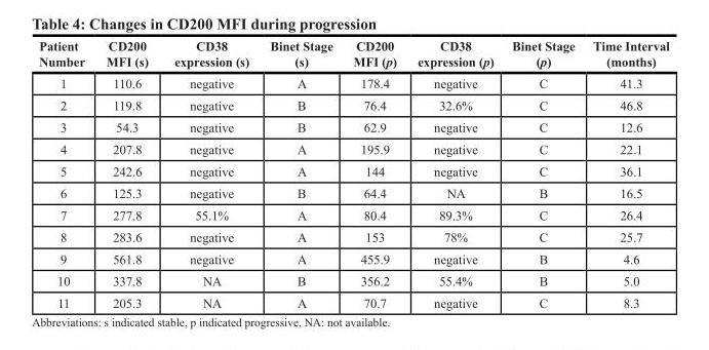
<table><thead><tr><td>Patient Number</td><td>CD200 MFI (s)</td><td>CD38 expression (s)</td><td>Binet Stage (s)</td><td>CD200 MFI (p)</td><td>CD38 expression (p)</td><td>Binet Stage (p)</td><td>Time Interval (months)</td></tr></thead><tbody><tr><td>1</td><td>110.6</td><td>negative</td><td>A</td><td>178.4</td><td>negative</td><td>C</td><td>41.3</td></tr><tr><td>2</td><td>119.8</td><td>negative</td><td>B</td><td>76.4</td><td>32.6%</td><td>C</td><td>46.8</td></tr><tr><td>3</td><td>54.3</td><td>negative</td><td>B</td><td>62.9</td><td>negative</td><td>C</td><td>12.6</td></tr><tr><td>4</td><td>207.8</td><td>negative</td><td>A</td><td>195.9</td><td>negative</td><td>C</td><td>22.1</td></tr><tr><td>5</td><td>242.6</td><td>negative</td><td>A</td><td>144</td><td>negative</td><td>C</td><td>36.1</td></tr><tr><td>6</td><td>125.3</td><td>negative</td><td>B</td><td>64.4</td><td>NA</td><td>B</td><td>16.5</td></tr><tr><td>7</td><td>277.8</td><td>55.1%</td><td>A</td><td>80.4</td><td>89.3%</td><td>C</td><td>26.4</td></tr><tr><td>8</td><td>283.6</td><td>negative</td><td>A</td><td>153</td><td>78%</td><td>C</td><td>25.7</td></tr><tr><td>9</td><td>561.8</td><td>negative</td><td>A</td><td>455.9</td><td>negative</td><td>B</td><td>4.6</td></tr><tr><td>10</td><td>337.8</td><td>NA</td><td>B</td><td>356.2</td><td>55.4%</td><td>B</td><td>5.0</td></tr><tr><td>11</td><td>205.3</td><td>NA</td><td>A</td><td>70.7</td><td>negative</td><td>C</td><td>8.3</td></tr></tbody></table>